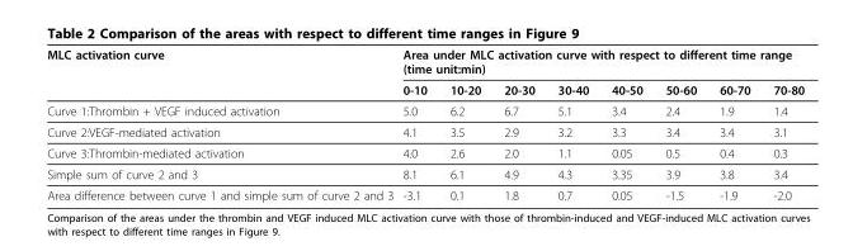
<table><thead><tr><td rowspan="2">MLC activation curve</td><td colspan="8">Area under MLC activation curve with respect to different time range (time unit:min)</td></tr><tr><td>0-10</td><td>10-20</td><td>20-30</td><td>30-40</td><td>40-50</td><td>50-60</td><td>60-70</td><td>70-80</td></tr></thead><tbody><tr><td>Curve 1:Thrombin + VEGF induced activation</td><td>5.0</td><td>6.2</td><td>6.7</td><td>5.1</td><td>3.4</td><td>2.4</td><td>1.9</td><td>1.4</td></tr><tr><td>Curve 2:VEGF-mediated activation</td><td>4.1</td><td>3.5</td><td>2.9</td><td>3.2</td><td>3.3</td><td>3.4</td><td>3.4</td><td>3.1</td></tr><tr><td>Curve 3:Thrombin-mediated activation</td><td>4.0</td><td>2.6</td><td>2.0</td><td>1.1</td><td>0.05</td><td>0.5</td><td>0.4</td><td>0.3</td></tr><tr><td>Simple sum of curve 2 and 3</td><td>8.1</td><td>6.1</td><td>4.9</td><td>4.3</td><td>3.35</td><td>3.9</td><td>3.8</td><td>3.4</td></tr><tr><td>Area difference between curve 1 and simple sum of curve 2 and 3</td><td>-3.1</td><td>0.1</td><td>1.8</td><td>0.7</td><td>0.05</td><td>-1.5</td><td>-1.9</td><td>-2.0</td></tr></tbody></table>